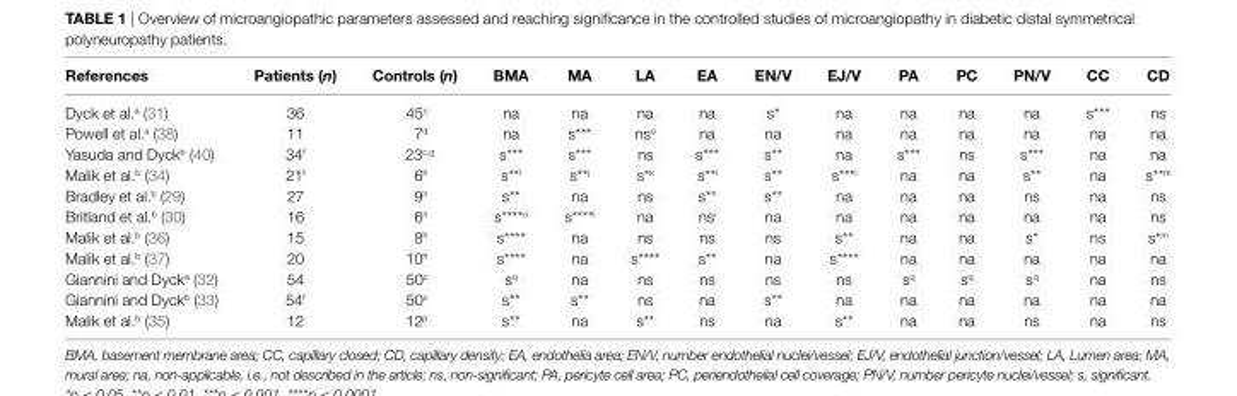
<table><thead><tr><td>References</td><td>Patients (n)</td><td>Controls (n)</td><td>BMA</td><td>MA</td><td>LA</td><td>eA</td><td>en/v</td><td>eJ/v</td><td>PA</td><td>PC</td><td>Pn/v</td><td>CC</td><td>CD</td></tr></thead><tbody><tr><td>Dyck et al.<sup>a</sup> (31)</td><td>36</td><td>45<sup>c</sup></td><td>na</td><td>na</td><td>na</td><td>na</td><td>s*</td><td>na</td><td>na</td><td>na</td><td>na</td><td>s***</td><td>ns</td></tr><tr><td>Powell et al.<sup>a</sup> (38)</td><td>11</td><td>7<sup>d</sup></td><td>na</td><td>s***</td><td>ns<sup>e</sup></td><td>na</td><td>na</td><td>na</td><td>na</td><td>na</td><td>na</td><td>na</td><td>na</td></tr><tr><td>Yasuda and Dyck<sup>b</sup> (40)</td><td>34<sup>f</sup></td><td>23<sup>c,g</sup></td><td>s***</td><td>s***</td><td>ns</td><td>s***</td><td>s**</td><td>na</td><td>s***</td><td>ns</td><td>s***</td><td>na</td><td>na</td></tr><tr><td>Malik et al.<sup>b</sup> (34)</td><td>21<sup>f</sup></td><td>6<sup>h</sup></td><td>s**<sup>i</sup></td><td>s**<sup>j</sup></td><td>s*<sup>k</sup></td><td>s**<sup>i</sup></td><td>s**</td><td>s***<sup>l</sup></td><td>na</td><td>na</td><td>s**</td><td>na</td><td>s**<sup>m</sup></td></tr><tr><td>Bradley et al.<sup>b</sup> (29)</td><td>27</td><td>9<sup>n</sup></td><td>s**</td><td>na</td><td>ns</td><td>s**</td><td>s**</td><td>na</td><td>na</td><td>na</td><td>ns</td><td>na</td><td>ns</td></tr><tr><td>Britland et al.<sup>b</sup> (30)</td><td>16</td><td>6<sup>n</sup></td><td>s****<sup>o</sup></td><td>s****<sup>i</sup></td><td>na</td><td>ns<sup>i</sup></td><td>na</td><td>na</td><td>na</td><td>na</td><td>na</td><td>na</td><td>ns</td></tr><tr><td>Malik et al.<sup>b</sup> (36)</td><td>15</td><td>8<sup>h</sup></td><td>s****</td><td>na</td><td>ns</td><td>ns</td><td>ns</td><td>s**</td><td>na</td><td>na</td><td>s*</td><td>ns</td><td>s*<sup>m</sup></td></tr><tr><td>Malik et al.<sup>b</sup> (37)</td><td>20</td><td>10<sup>h</sup></td><td>s****</td><td>na</td><td>s****</td><td>s**</td><td>na</td><td>s****</td><td>na</td><td>na</td><td>na</td><td>na</td><td>na</td></tr><tr><td>Giannini and Dyck<sup>a</sup> (32)</td><td>54</td><td>50<sup>c</sup></td><td>s<sup>q</sup></td><td>na</td><td>ns</td><td>ns</td><td>ns</td><td>ns</td><td>s<sup>q</sup></td><td>s<sup>q</sup></td><td>s<sup>q</sup></td><td>na</td><td>ns</td></tr><tr><td>Giannini and Dyck<sup>b</sup> (33)</td><td>54<sup>f</sup></td><td>50<sup>c</sup></td><td>s**</td><td>s**</td><td>ns</td><td>na</td><td>s**</td><td>na</td><td>na</td><td>na</td><td>na</td><td>na</td><td>na</td></tr><tr><td>Malik et al.<sup>b</sup> (35)</td><td>12</td><td>12<sup>p</sup></td><td>s**</td><td>na</td><td>s**</td><td>ns</td><td>na</td><td>s**</td><td>na</td><td>na</td><td>ns</td><td>na</td><td>ns</td></tr></tbody></table>